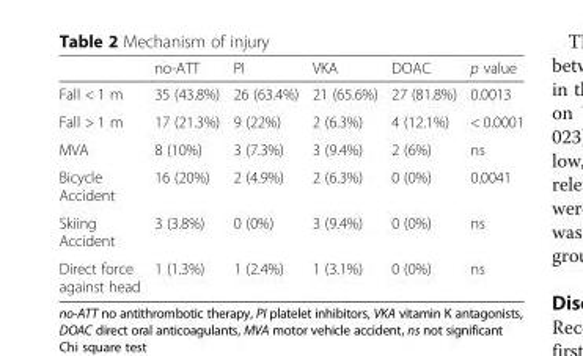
<table><thead><tr><td></td><td>no-ATT</td><td>PI</td><td>VKA</td><td>DOAC</td><td>p value</td></tr></thead><tbody><tr><td>Fall &lt; 1 m</td><td>35 (43.8%)</td><td>26 (63.4%)</td><td>21 (65.6%)</td><td>27 (81.8%)</td><td>0.0013</td></tr><tr><td>Fall &gt; 1 m</td><td>17 (21.3%)</td><td>9 (22%)</td><td>2 (6.3%)</td><td>4 (12.1%)</td><td>&lt; 0.0001</td></tr><tr><td>MVA</td><td>8 (10%)</td><td>3 (7.3%)</td><td>3 (9.4%)</td><td>2 (6%)</td><td>ns</td></tr><tr><td>Bicycle Accident</td><td>16 (20%)</td><td>2 (4.9%)</td><td>2 (6.3%)</td><td>0 (0%)</td><td>0.0041</td></tr><tr><td>Skiing Accident</td><td>3 (3.8%)</td><td>0 (0%)</td><td>3 (9.4%)</td><td>0 (0%)</td><td>ns</td></tr><tr><td>Direct force against head</td><td>1 (1.3%)</td><td>1 (2.4%)</td><td>1 (3.1%)</td><td>0 (0%)</td><td>ns</td></tr></tbody></table>